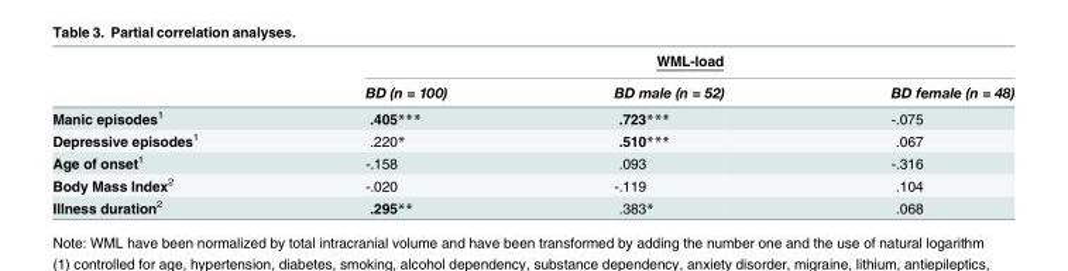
<table><thead><tr><td rowspan="2"></td><td colspan="3">WML-load</td></tr><tr><td>BD (n = 100)</td><td>BD male (n = 52)</td><td>BD female (n = 48)</td></tr></thead><tbody><tr><td>Manic episodes<sup>1</sup></td><td>.405***</td><td>.723***</td><td>-.075</td></tr><tr><td>Depressive episodes<sup>1</sup></td><td>.220*</td><td>.510***</td><td>.067</td></tr><tr><td>Age of onset<sup>1</sup></td><td>-.158</td><td>.093</td><td>-.316</td></tr><tr><td>Body Mass Index<sup>2</sup></td><td>-.020</td><td>-.119</td><td>.104</td></tr><tr><td>Illness duration<sup>2</sup></td><td>.295**</td><td>.383*</td><td>.068</td></tr></tbody></table>